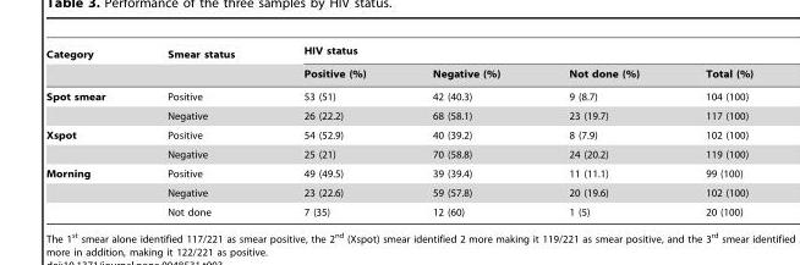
<table><thead><tr><td rowspan="2">Category</td><td rowspan="2">Smear status</td><td colspan="4">HIV status</td></tr><tr><td>Positive (%)</td><td>Negative (%)</td><td>Not done (%)</td><td>Total (%)</td></tr></thead><tbody><tr><td rowspan="2">Spot smear</td><td>Positive</td><td>53 (51)</td><td>42 (40.3)</td><td>9 (8.7)</td><td>104 (100)</td></tr><tr><td>Negative</td><td>26 (22.2)</td><td>68 (58.1)</td><td>23 (19.7)</td><td>117 (100)</td></tr><tr><td rowspan="2">Xspot</td><td>Positive</td><td>54 (52.9)</td><td>40 (39.2)</td><td>8 (7.9)</td><td>102 (100)</td></tr><tr><td>Negative</td><td>25 (21)</td><td>70 (58.8)</td><td>24 (20.2)</td><td>119 (100)</td></tr><tr><td rowspan="3">Morning</td><td>Positive</td><td>49 (49.5)</td><td>39 (39.4)</td><td>11 (11.1)</td><td>99 (100)</td></tr><tr><td>Negative</td><td>23 (22.6)</td><td>59 (57.8)</td><td>20 (19.6)</td><td>102 (100)</td></tr><tr><td>Not done</td><td>7 (35)</td><td>12 (60)</td><td>1 (5)</td><td>20 (100)</td></tr></tbody></table>